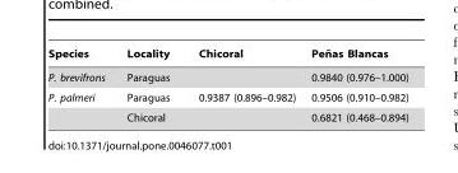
<table><thead><tr><td>Species</td><td>Locality</td><td>Chicoral</td><td>Pen˜ as Blancas</td></tr></thead><tbody><tr><td>P. brevifrons</td><td>Paraguas</td><td></td><td>0.9840 (0.976–1.000)</td></tr><tr><td rowspan="2">P. palmeri</td><td>Paraguas</td><td>0.9387 (0.896–0.982)</td><td>0.9506 (0.910–0.982)</td></tr><tr><td>Chicoral</td><td></td><td>0.6821 (0.468–0.894)</td></tr></tbody></table>